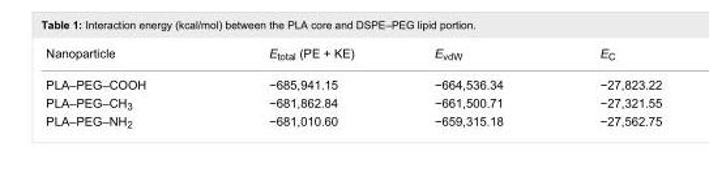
<table><tbody><tr><td>Nanoparticle</td><td>E<sub>total</sub> (PE + KE)</td><td>E<sub>vdW</sub></td><td>E<sub>C</sub></td></tr><tr><td>PLA–PEG–COOH</td><td>−685,941.15</td><td>−664,536.34</td><td>−27,823.22</td></tr><tr><td>PLA–PEG–CH<sub>3</sub></td><td>−681,862.84</td><td>−661,500.71</td><td>−27,321.55</td></tr><tr><td>PLA–PEG–NH<sub>2</sub></td><td>−681,010.60</td><td>−659,315.18</td><td>−27,562.75</td></tr></tbody></table>